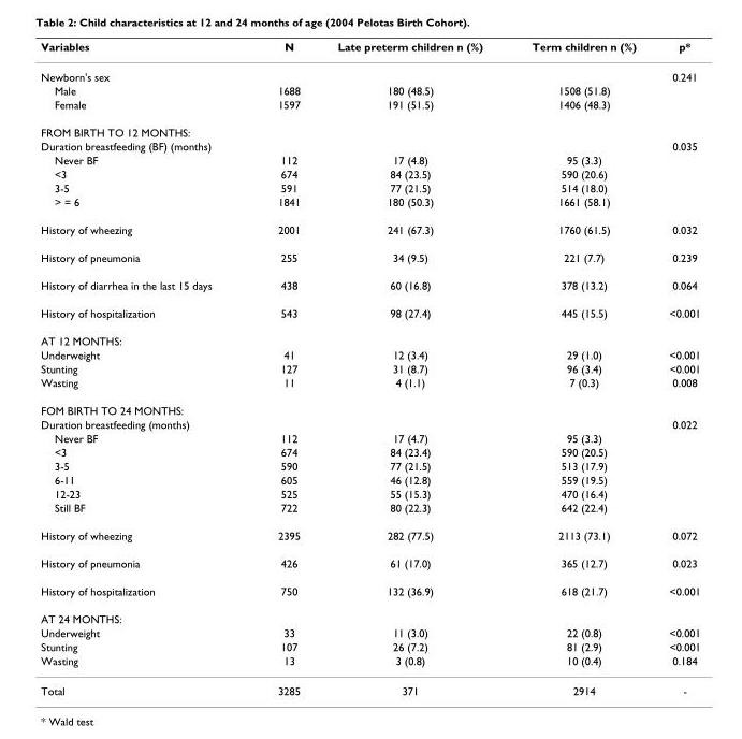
<table><thead><tr><td>Variables</td><td>N</td><td>Late preterm children n (%)</td><td>Term children n (%)</td><td>p*</td></tr></thead><tbody><tr><td>Newborn&#x27;s sex</td><td></td><td></td><td></td><td>0.241</td></tr><tr><td>Male</td><td>1688</td><td>180 (48.5)</td><td>1508 (51.8)</td><td></td></tr><tr><td>Female</td><td>1597</td><td>191 (51.5)</td><td>1406 (48.3)</td><td></td></tr><tr><td colspan="5">FROM BIRTH TO 12 MONTHS:</td></tr><tr><td>Duration breastfeeding (BF) (months)</td><td></td><td></td><td></td><td>0.035</td></tr><tr><td>Never BF</td><td>112</td><td>17 (4.8)</td><td>95 (3.3)</td><td></td></tr><tr><td>&lt;3</td><td>674</td><td>84 (23.5)</td><td>590 (20.6)</td><td></td></tr><tr><td>3-5</td><td>591</td><td>77 (21.5)</td><td>514 (18.0)</td><td></td></tr><tr><td>&gt; = 6</td><td>1841</td><td>180 (50.3)</td><td>1661 (58.1)</td><td></td></tr><tr><td>History of wheezing</td><td>2001</td><td>241 (67.3)</td><td>1760 (61.5)</td><td>0.032</td></tr><tr><td>History of pneumonia</td><td>255</td><td>34 (9.5)</td><td>221 (7.7)</td><td>0.239</td></tr><tr><td>History of diarrhea in the last 15 days</td><td>438</td><td>60 (16.8)</td><td>378 (13.2)</td><td>0.064</td></tr><tr><td>History of hospitalization</td><td>543</td><td>98 (27.4)</td><td>445 (15.5)</td><td>&lt;0.001</td></tr><tr><td colspan="5">AT 12 MONTHS:</td></tr><tr><td>Underweight</td><td>41</td><td>12 (3.4)</td><td>29 (1.0)</td><td>&lt;0.001</td></tr><tr><td>Stunting</td><td>127</td><td>31 (8.7)</td><td>96 (3.4)</td><td>&lt;0.001</td></tr><tr><td>Wasting</td><td>11</td><td>4 (1.1)</td><td>7 (0.3)</td><td>0.008</td></tr><tr><td colspan="5">FOM BIRTH TO 24 MONTHS:</td></tr><tr><td>Duration breastfeeding (months)</td><td></td><td></td><td></td><td>0.022</td></tr><tr><td>Never BF</td><td>112</td><td>17 (4.7)</td><td>95 (3.3)</td><td></td></tr><tr><td>&lt;3</td><td>674</td><td>84 (23.4)</td><td>590 (20.5)</td><td></td></tr><tr><td>3-5</td><td>590</td><td>77 (21.5)</td><td>513 (17.9)</td><td></td></tr><tr><td>6-11</td><td>605</td><td>46 (12.8)</td><td>559 (19.5)</td><td></td></tr><tr><td>12-23</td><td>525</td><td>55 (15.3)</td><td>470 (16.4)</td><td></td></tr><tr><td>Still BF</td><td>722</td><td>80 (22.3)</td><td>642 (22.4)</td><td></td></tr><tr><td>History of wheezing</td><td>2395</td><td>282 (77.5)</td><td>2113 (73.1)</td><td>0.072</td></tr><tr><td>History of pneumonia</td><td>426</td><td>61 (17.0)</td><td>365 (12.7)</td><td>0.023</td></tr><tr><td>History of hospitalization</td><td>750</td><td>132 (36.9)</td><td>618 (21.7)</td><td>&lt;0.001</td></tr><tr><td colspan="5">AT 24 MONTHS:</td></tr><tr><td>Underweight</td><td>33</td><td>11 (3.0)</td><td>22 (0.8)</td><td>&lt;0.001</td></tr><tr><td>Stunting</td><td>107</td><td>26 (7.2)</td><td>81 (2.9)</td><td>&lt;0.001</td></tr><tr><td>Wasting</td><td>13</td><td>3 (0.8)</td><td>10 (0.4)</td><td>0.184</td></tr><tr><td>Total</td><td>3285</td><td>371</td><td>2914</td><td>-</td></tr></tbody></table>